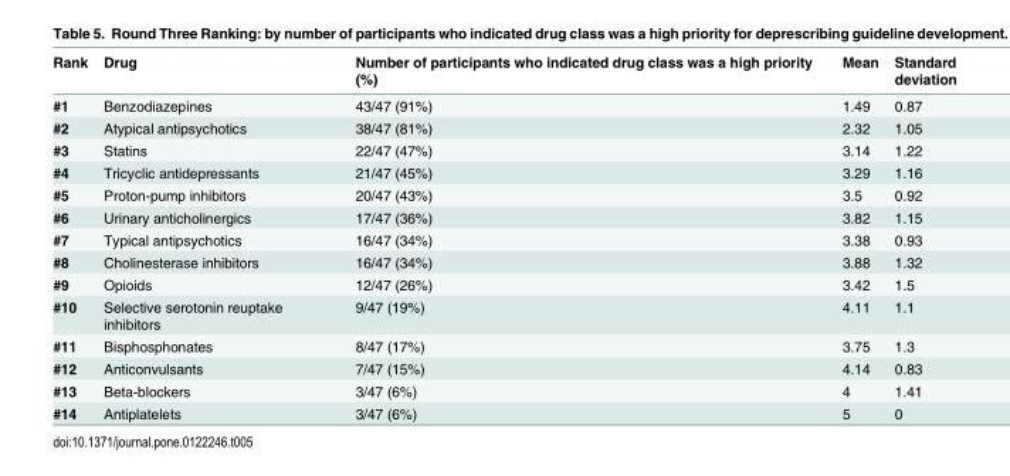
<table><thead><tr><td>Rank</td><td>Drug</td><td>Number of participants who indicated drug class was a high priority (%)</td><td>Mean</td><td>Standard deviation</td></tr></thead><tbody><tr><td>#1</td><td>Benzodiazepines</td><td>43/47 (91%)</td><td>1.49</td><td>0.87</td></tr><tr><td>#2</td><td>Atypical antipsychotics</td><td>38/47 (81%)</td><td>2.32</td><td>1.05</td></tr><tr><td>#3</td><td>Statins</td><td>22/47 (47%)</td><td>3.14</td><td>1.22</td></tr><tr><td>#4</td><td>Tricyclic antidepressants</td><td>21/47 (45%)</td><td>3.29</td><td>1.16</td></tr><tr><td>#5</td><td>Proton-pump inhibitors</td><td>20/47 (43%)</td><td>3.5</td><td>0.92</td></tr><tr><td>#6</td><td>Urinary anticholinergics</td><td>17/47 (36%)</td><td>3.82</td><td>1.15</td></tr><tr><td>#7</td><td>Typical antipsychotics</td><td>16/47 (34%)</td><td>3.38</td><td>0.93</td></tr><tr><td>#8</td><td>Cholinesterase inhibitors</td><td>16/47 (34%)</td><td>3.88</td><td>1.32</td></tr><tr><td>#9</td><td>Opioids</td><td>12/47 (26%)</td><td>3.42</td><td>1.5</td></tr><tr><td>#10</td><td>Selective serotonin reuptake inhibitors</td><td>9/47 (19%)</td><td>4.11</td><td>1.1</td></tr><tr><td>#11</td><td>Bisphosphonates</td><td>8/47 (17%)</td><td>3.75</td><td>1.3</td></tr><tr><td>#12</td><td>Anticonvulsants</td><td>7/47 (15%)</td><td>4.14</td><td>0.83</td></tr><tr><td>#13</td><td>Beta-blockers</td><td>3/47 (6%)</td><td>4</td><td>1.41</td></tr><tr><td>#14</td><td>Antiplatelets</td><td>3/47 (6%)</td><td>5</td><td>0</td></tr></tbody></table>